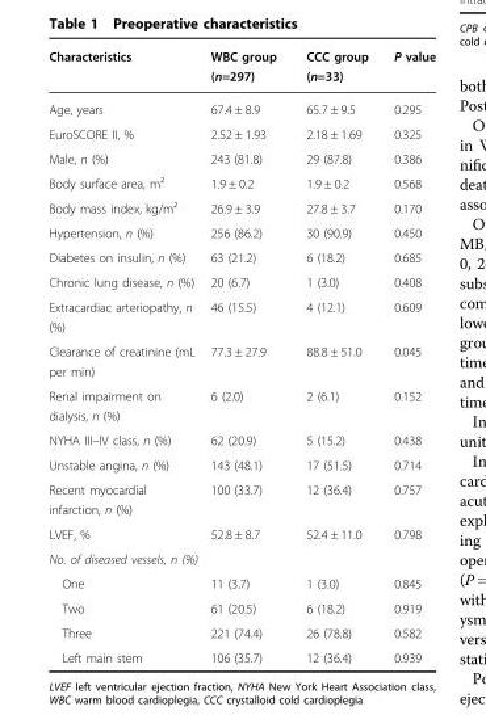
<table><thead><tr><td>Characteristics</td><td>WBC group (n=297)</td><td>CCC group (n=33)</td><td>P value</td></tr></thead><tbody><tr><td>Age, years</td><td>67.4 ± 8.9</td><td>65.7 ± 9.5</td><td>0.295</td></tr><tr><td>EuroSCORE II, %</td><td>2.52 ± 1.93</td><td>2.18 ± 1.69</td><td>0.325</td></tr><tr><td>Male, n (%)</td><td>243 (81.8)</td><td>29 (87.8)</td><td>0.386</td></tr><tr><td>Body surface area, m²</td><td>1.9 ± 0.2</td><td>1.9 ± 0.2</td><td>0.568</td></tr><tr><td>Body mass index, kg/m²</td><td>26.9 ± 3.9</td><td>27.8 ± 3.7</td><td>0.170</td></tr><tr><td>Hypertension, n (%)</td><td>256 (86.2)</td><td>30 (90.9)</td><td>0.450</td></tr><tr><td>Diabetes on insulin, n (%)</td><td>63 (21.2)</td><td>6 (18.2)</td><td>0.685</td></tr><tr><td>Chronic lung disease, n (%)</td><td>20 (6.7)</td><td>1 (3.0)</td><td>0.408</td></tr><tr><td>Extracardiac arteriopathy, n (%)</td><td>46 (15.5)</td><td>4 (12.1)</td><td>0.609</td></tr><tr><td>Clearance of creatinine (mL per min)</td><td>77.3 ± 27.9</td><td>88.8 ± 51.0</td><td>0.045</td></tr><tr><td>Renal impairment on dialysis, n (%)</td><td>6 (2.0)</td><td>2 (6.1)</td><td>0.152</td></tr><tr><td>NYHA III–IV class, n (%)</td><td>62 (20.9)</td><td>5 (15.2)</td><td>0.438</td></tr><tr><td>Unstable angina, n (%)</td><td>143 (48.1)</td><td>17 (51.5)</td><td>0.714</td></tr><tr><td>Recent myocardial infarction, n (%)</td><td>100 (33.7)</td><td>12 (36.4)</td><td>0.757</td></tr><tr><td>LVEF, %</td><td>52.8 ± 8.7</td><td>52.4 ± 11.0</td><td>0.798</td></tr><tr><td colspan="4">No. of diseased vessels, n (%)</td></tr><tr><td>One</td><td>11 (3.7)</td><td>1 (3.0)</td><td>0.845</td></tr><tr><td>Two</td><td>61 (20.5)</td><td>6 (18.2)</td><td>0.919</td></tr><tr><td>Three</td><td>221 (74.4)</td><td>26 (78.8)</td><td>0.582</td></tr><tr><td>Left main stem</td><td>106 (35.7)</td><td>12 (36.4)</td><td>0.939</td></tr></tbody></table>